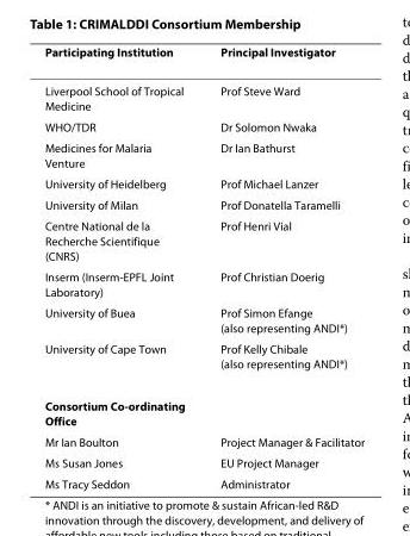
<table><thead><tr><td>Participating Institution</td><td>Principal Investigator</td></tr></thead><tbody><tr><td>Liverpool School of Tropical Medicine</td><td>Prof Steve Ward</td></tr><tr><td>WHO/TDR</td><td>Dr Solomon Nwaka</td></tr><tr><td>Medicines for Malaria Venture</td><td>Dr Ian Bathurst</td></tr><tr><td>University of Heidelberg</td><td>Prof Michael Lanzer</td></tr><tr><td>University of Milan</td><td>Prof Donatella Taramelli</td></tr><tr><td>Centre National de la Recherche Scientifique (CNRS)</td><td>Prof Henri Vial</td></tr><tr><td>Inserm (Inserm-EPFL Joint Laboratory)</td><td>Prof Christian Doerig</td></tr><tr><td>University of Buea</td><td>Prof Simon Efange (also representing ANDI*)</td></tr><tr><td>University of Cape Town</td><td>Prof Kelly Chibale (also representing ANDI*)</td></tr><tr><td colspan="2">Consortium Co-ordinating Office</td></tr><tr><td>Mr Ian Boulton</td><td>Project Manager &amp; Facilitator</td></tr><tr><td>Ms Susan Jones</td><td>EU Project Manager</td></tr><tr><td>Ms Tracy Seddon</td><td>Administrator</td></tr></tbody></table>